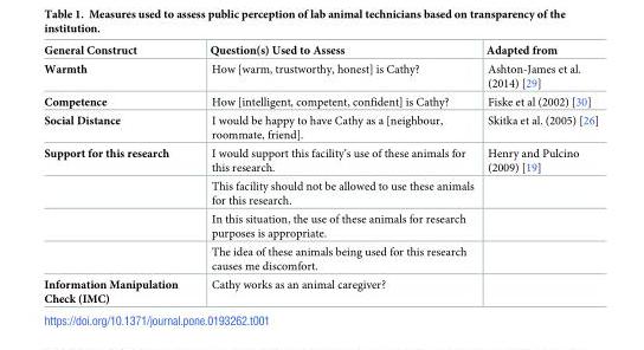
<table><thead><tr><td>General Construct</td><td>Question(s) Used to Assess</td><td>Adapted from</td></tr></thead><tbody><tr><td>Warmth</td><td>How [warm, trustworthy, honest] is Cathy?</td><td>Ashton-James et al. (2014) [29]</td></tr><tr><td>Competence</td><td>How [intelligent, competent, confident] is Cathy?</td><td>Fiske et al (2002) [30]</td></tr><tr><td>Social Distance</td><td>I would be happy to have Cathy as a [neighbour, roommate, friend].</td><td>Skitka et al. (2005) [26]</td></tr><tr><td rowspan="4">Support for this research</td><td>I would support this facility’s use of these animals for this research.</td><td>Henry and Pulcino (2009) [19]</td></tr><tr><td>This facility should not be allowed to use these animals for this research.</td><td></td></tr><tr><td>In this situation, the use of these animals for research purposes is appropriate.</td><td></td></tr><tr><td>The idea of these animals being used for this research causes me discomfort.</td><td></td></tr><tr><td>Information Manipulation Check (IMC)</td><td>Cathy works as an animal caregiver?</td><td></td></tr></tbody></table>